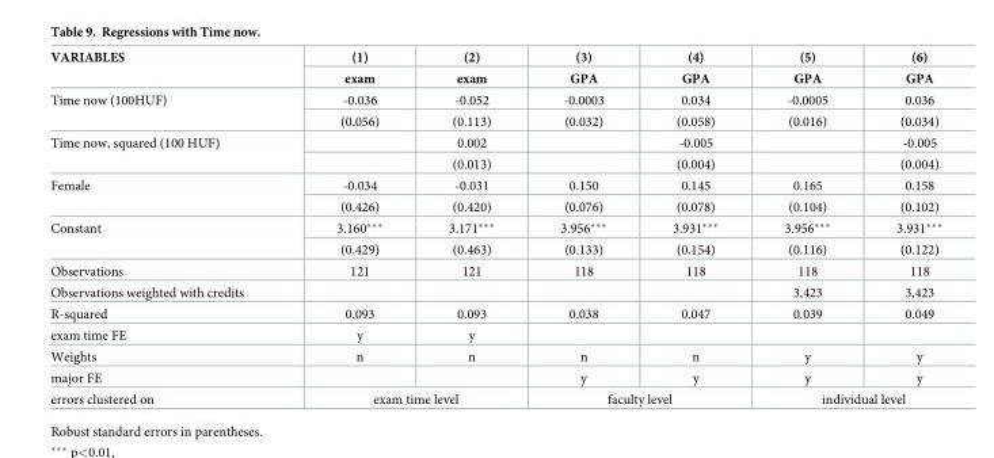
<table><thead><tr><td rowspan="2">VARIABLES</td><td rowspan="2">(1) exam</td><td rowspan="2">(2) exam</td><td rowspan="2">(3) GPA</td><td rowspan="2">(4) GPA</td><td rowspan="2">(5) GPA</td><td rowspan="2">(6) GPA</td></tr><tr></tr></thead><tbody><tr><td rowspan="2">Time now (100HUF)</td><td>-0.036</td><td>-0.052</td><td>-0.0003</td><td>0.034</td><td>-0.0005</td><td>0.036</td></tr><tr><td>(0.056)</td><td>(0.113)</td><td>(0.032)</td><td>(0.058)</td><td>(0.016)</td><td>(0.034)</td></tr><tr><td rowspan="2">Time now, squared (100 HUF)</td><td></td><td>0.002</td><td></td><td>-0.005</td><td></td><td>-0.005</td></tr><tr><td></td><td>(0.013)</td><td></td><td>(0.004)</td><td></td><td>(0.004)</td></tr><tr><td rowspan="2">Female</td><td>-0.034</td><td>-0.031</td><td>0.150</td><td>0.145</td><td>0.165</td><td>0.158</td></tr><tr><td>(0.426)</td><td>(0.420)</td><td>(0.076)</td><td>(0.078)</td><td>(0.104)</td><td>(0.102)</td></tr><tr><td rowspan="2">Constant</td><td>3.160***</td><td>3.171***</td><td>3.956***</td><td>3.931***</td><td>3.956***</td><td>3.931***</td></tr><tr><td>(0.429)</td><td>(0.463)</td><td>(0.133)</td><td>(0.154)</td><td>(0.116)</td><td>(0.122)</td></tr><tr><td>Observations</td><td>121</td><td>121</td><td>118</td><td>118</td><td>118</td><td>118</td></tr><tr><td>Observations weighted with credits</td><td></td><td></td><td></td><td></td><td>3,423</td><td>3,423</td></tr><tr><td>R-squared</td><td>0.093</td><td>0.093</td><td>0.038</td><td>0.047</td><td>0.039</td><td>0.049</td></tr><tr><td>exam time FE</td><td>y</td><td>y</td><td></td><td></td><td></td><td></td></tr><tr><td>Weights</td><td>n</td><td>n</td><td>n</td><td>n</td><td>y</td><td>y</td></tr><tr><td>major FE</td><td></td><td></td><td>y</td><td>y</td><td>y</td><td>y</td></tr><tr><td>errors clustered on</td><td colspan="2">exam time level</td><td colspan="2">faculty level</td><td colspan="2">individual level</td></tr></tbody></table>